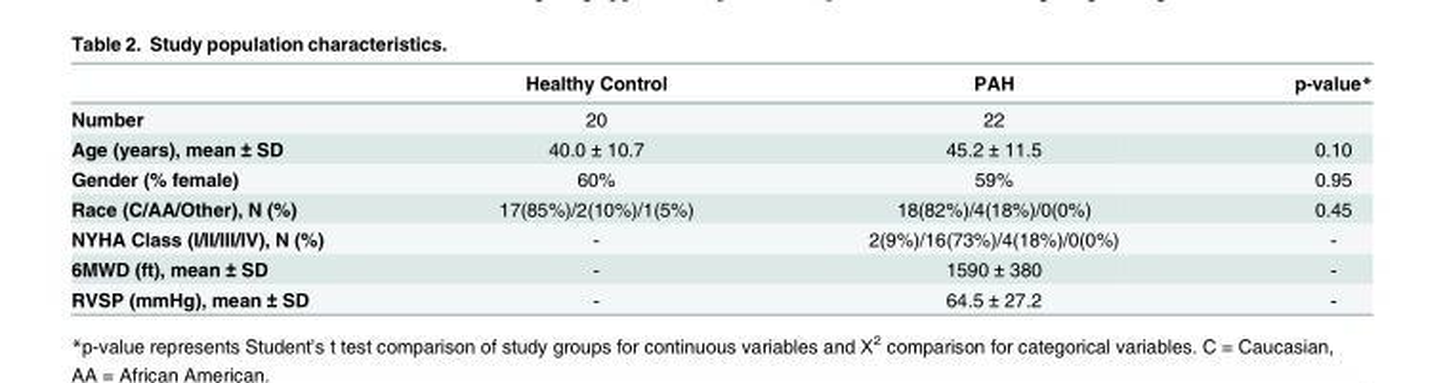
<table><thead><tr><td></td><td>Healthy Control</td><td>PAH</td><td>p-value*</td></tr></thead><tbody><tr><td>Number</td><td>20</td><td>22</td><td></td></tr><tr><td>Age (years), mean ± SD</td><td>40.0 ± 10.7</td><td>45.2 ± 11.5</td><td>0.10</td></tr><tr><td>Gender (% female)</td><td>60%</td><td>59%</td><td>0.95</td></tr><tr><td>Race (C/AA/Other), N (%)</td><td>17(85%)/2(10%)/1(5%)</td><td>18(82%)/4(18%)/0(0%)</td><td>0.45</td></tr><tr><td>NYHA Class (I/II/III/IV), N (%)</td><td>-</td><td>2(9%)/16(73%)/4(18%)/0(0%)</td><td>-</td></tr><tr><td>6MWD (ft), mean ± SD</td><td>-</td><td>1590 ± 380</td><td>-</td></tr><tr><td>RVSP (mmHg), mean ± SD</td><td>-</td><td>64.5 ± 27.2</td><td>-</td></tr></tbody></table>